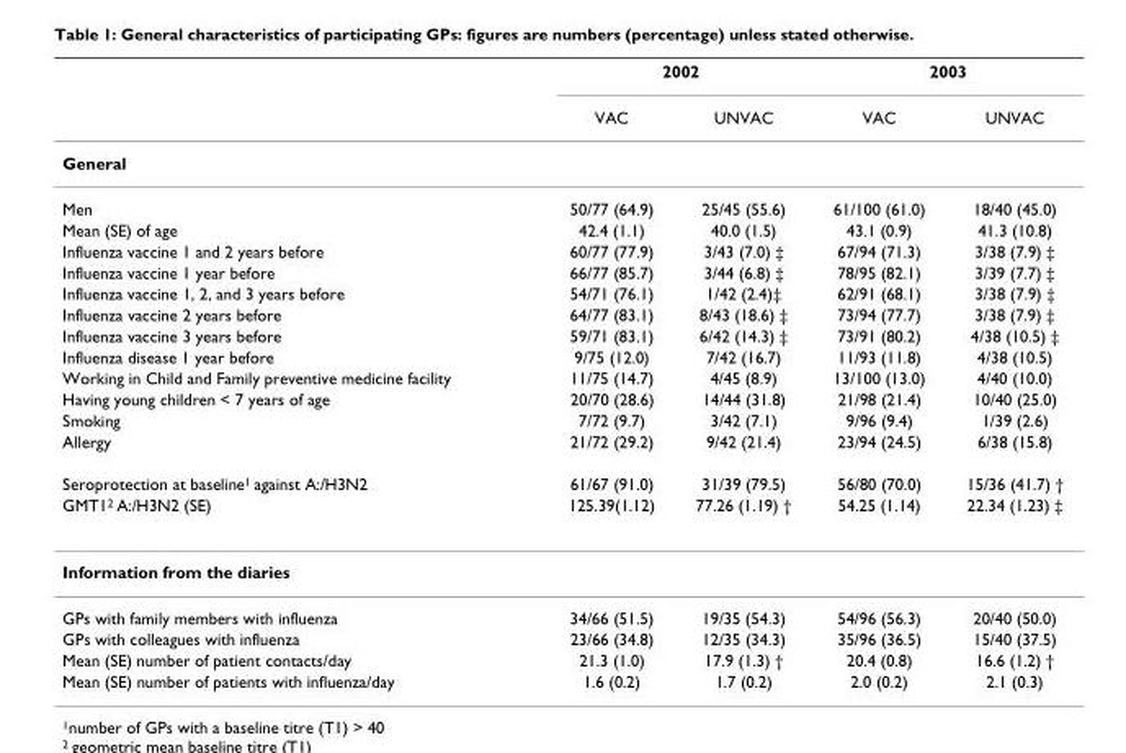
<table><thead><tr><td rowspan="2"></td><td colspan="2">2002</td><td colspan="2">2003</td></tr><tr><td>VAC</td><td>UNVAC</td><td>VAC</td><td>UNVAC</td></tr></thead><tbody><tr><td colspan="5">General</td></tr><tr><td>Men</td><td>50/77 (64.9)</td><td>25/45 (55.6)</td><td>61/100 (61.0)</td><td>18/40 (45.0)</td></tr><tr><td>Mean (SE) of age</td><td>42.4 (1.1)</td><td>40.0 (1.5)</td><td>43.1 (0.9)</td><td>41.3 (10.8)</td></tr><tr><td>Influenza vaccine 1 and 2 years before</td><td>60/77 (77.9)</td><td>3/43 (7.0) ‡</td><td>67/94 (71.3)</td><td>3/38 (7.9) ‡</td></tr><tr><td>Influenza vaccine 1 year before</td><td>66/77 (85.7)</td><td>3/44 (6.8) ‡</td><td>78/95 (82.1)</td><td>3/39 (7.7) ‡</td></tr><tr><td>Influenza vaccine 1, 2, and 3 years before</td><td>54/71 (76.1)</td><td>1/42 (2.4)‡</td><td>62/91 (68.1)</td><td>3/38 (7.9) ‡</td></tr><tr><td>Influenza vaccine 2 years before</td><td>64/77 (83.1)</td><td>8/43 (18.6) ‡</td><td>73/94 (77.7)</td><td>3/38 (7.9) ‡</td></tr><tr><td>Influenza vaccine 3 years before</td><td>59/71 (83.1)</td><td>6/42 (14.3) ‡</td><td>73/91 (80.2)</td><td>4/38 (10.5) ‡</td></tr><tr><td>Influenza disease 1 year before</td><td>9/75 (12.0)</td><td>7/42 (16.7)</td><td>11/93 (11.8)</td><td>4/38 (10.5)</td></tr><tr><td>Working in Child and Family preventive medicine facility</td><td>11/75 (14.7)</td><td>4/45 (8.9)</td><td>13/100 (13.0)</td><td>4/40 (10.0)</td></tr><tr><td>Having young children &lt; 7 years of age</td><td>20/70 (28.6)</td><td>14/44 (31.8)</td><td>21/98 (21.4)</td><td>10/40 (25.0)</td></tr><tr><td>Smoking</td><td>7/72 (9.7)</td><td>3/42 (7.1)</td><td>9/96 (9.4)</td><td>1/39 (2.6)</td></tr><tr><td>Allergy</td><td>21/72 (29.2)</td><td>9/42 (21.4)</td><td>23/94 (24.5)</td><td>6/38 (15.8)</td></tr><tr><td>Seroprotection at baseline1 against A:/H3N2</td><td>61/67 (91.0)</td><td>31/39 (79.5)</td><td>56/80 (70.0)</td><td>15/36 (41.7) †</td></tr><tr><td>GMT12 A:/H3N2 (SE)</td><td>125.39(1.12)</td><td>77.26 (1.19) †</td><td>54.25 (1.14)</td><td>22.34 (1.23) ‡</td></tr><tr><td colspan="5">Information from the diaries</td></tr><tr><td>GPs with family members with influenza</td><td>34/66 (51.5)</td><td>19/35 (54.3)</td><td>54/96 (56.3)</td><td>20/40 (50.0)</td></tr><tr><td>GPs with colleagues with influenza</td><td>23/66 (34.8)</td><td>12/35 (34.3)</td><td>35/96 (36.5)</td><td>15/40 (37.5)</td></tr><tr><td>Mean (SE) number of patient contacts/day</td><td>21.3 (1.0)</td><td>17.9 (1.3) †</td><td>20.4 (0.8)</td><td>16.6 (1.2) †</td></tr><tr><td>Mean (SE) number of patients with influenza/day</td><td>1.6 (0.2)</td><td>1.7 (0.2)</td><td>2.0 (0.2)</td><td>2.1 (0.3)</td></tr></tbody></table>